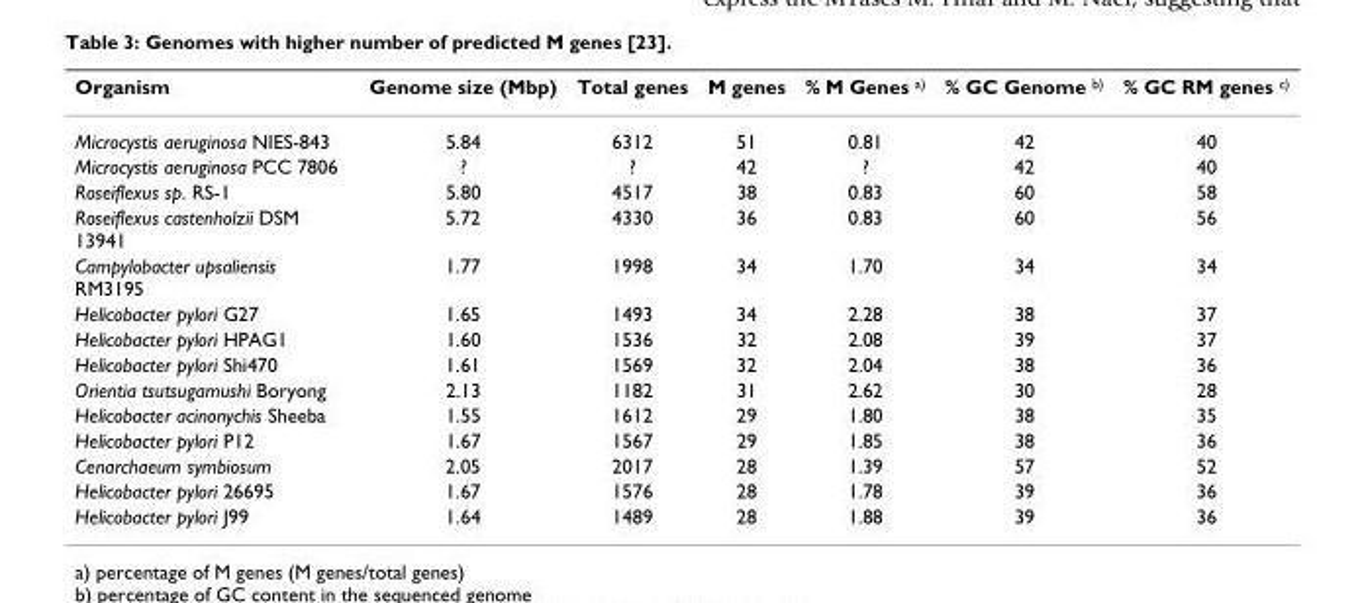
<table><thead><tr><td>Organism</td><td>Genome size (Mbp)</td><td>Total genes</td><td>M genes</td><td>% M Genes <sup>a)</sup></td><td>% GC Genome <sup>b)</sup></td><td>% GC RM genes <sup>c)</sup></td></tr></thead><tbody><tr><td>Microcystis aeruginosa NIES-843</td><td>5.84</td><td>6312</td><td>51</td><td>0.81</td><td>42</td><td>40</td></tr><tr><td>Microcystis aeruginosa PCC 7806</td><td>?</td><td>?</td><td>42</td><td>?</td><td>42</td><td>40</td></tr><tr><td>Roseiflexus sp. RS-1</td><td>5.80</td><td>4517</td><td>38</td><td>0.83</td><td>60</td><td>58</td></tr><tr><td>Roseiflexus castenholzii DSM 13941</td><td>5.72</td><td>4330</td><td>36</td><td>0.83</td><td>60</td><td>56</td></tr><tr><td>Campylobacter upsaliensis RM3195</td><td>1.77</td><td>1998</td><td>34</td><td>1.70</td><td>34</td><td>34</td></tr><tr><td>Helicobacter pylori G27</td><td>1.65</td><td>1493</td><td>34</td><td>2.28</td><td>38</td><td>37</td></tr><tr><td>Helicobacter pylori HPAG1</td><td>1.60</td><td>1536</td><td>32</td><td>2.08</td><td>39</td><td>37</td></tr><tr><td>Helicobacter pylori Shi470</td><td>1.61</td><td>1569</td><td>32</td><td>2.04</td><td>38</td><td>36</td></tr><tr><td>Orientia tsutsugamushi Boryong</td><td>2.13</td><td>1182</td><td>31</td><td>2.62</td><td>30</td><td>28</td></tr><tr><td>Helicobacter acinonychis Sheeba</td><td>1.55</td><td>1612</td><td>29</td><td>1.80</td><td>38</td><td>35</td></tr><tr><td>Helicobacter pylori P12</td><td>1.67</td><td>1567</td><td>29</td><td>1.85</td><td>38</td><td>36</td></tr><tr><td>Cenarchaeum symbiosum</td><td>2.05</td><td>2017</td><td>28</td><td>1.39</td><td>57</td><td>52</td></tr><tr><td>Helicobacter pylori 26695</td><td>1.67</td><td>1576</td><td>28</td><td>1.78</td><td>39</td><td>36</td></tr><tr><td>Helicobacter pylori J99</td><td>1.64</td><td>1489</td><td>28</td><td>1.88</td><td>39</td><td>36</td></tr></tbody></table>